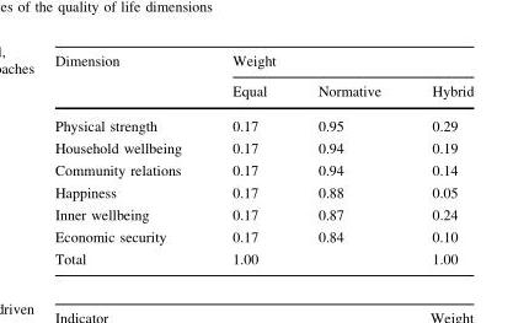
<table><thead><tr><td rowspan="2">Dimension</td><td colspan="3">Weight</td></tr><tr><td>Equal</td><td>Normative</td><td>Hybrid</td></tr></thead><tbody><tr><td>Physical strength</td><td>0.17</td><td>0.95</td><td>0.29</td></tr><tr><td>Household wellbeing</td><td>0.17</td><td>0.94</td><td>0.19</td></tr><tr><td>Community relations</td><td>0.17</td><td>0.94</td><td>0.14</td></tr><tr><td>Happiness</td><td>0.17</td><td>0.88</td><td>0.05</td></tr><tr><td>Inner wellbeing</td><td>0.17</td><td>0.87</td><td>0.24</td></tr><tr><td>Economic security</td><td>0.17</td><td>0.84</td><td>0.10</td></tr><tr><td>Total</td><td>1.00</td><td></td><td>1.00</td></tr></tbody></table>